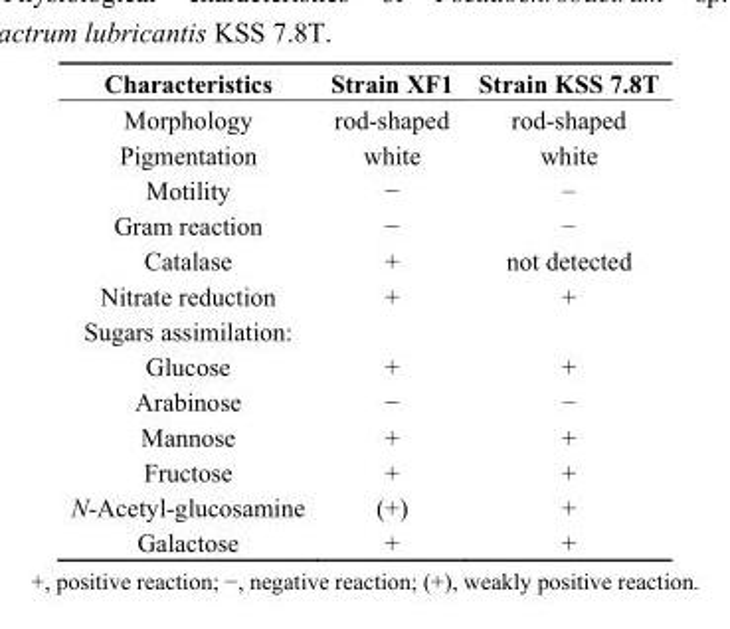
<table><thead><tr><td>Characteristics</td><td>Strain XF1</td><td>Strain KSS 7.8T</td></tr></thead><tbody><tr><td>Morphology</td><td>rod-shaped</td><td>rod-shaped</td></tr><tr><td>Pigmentation</td><td>white</td><td>white</td></tr><tr><td>Motility</td><td>−</td><td>−</td></tr><tr><td>Gram reaction</td><td>−</td><td>−</td></tr><tr><td>Catalase</td><td>+</td><td>not detected</td></tr><tr><td>Nitrate reduction</td><td>+</td><td>+</td></tr><tr><td colspan="3">Sugars assimilation:</td></tr><tr><td>Glucose</td><td>+</td><td>+</td></tr><tr><td>Arabinose</td><td>−</td><td>−</td></tr><tr><td>Mannose</td><td>+</td><td>+</td></tr><tr><td>Fructose</td><td>+</td><td>+</td></tr><tr><td>N-Acetyl-glucosamine</td><td>(+)</td><td>+</td></tr><tr><td>Galactose</td><td>+</td><td>+</td></tr></tbody></table>